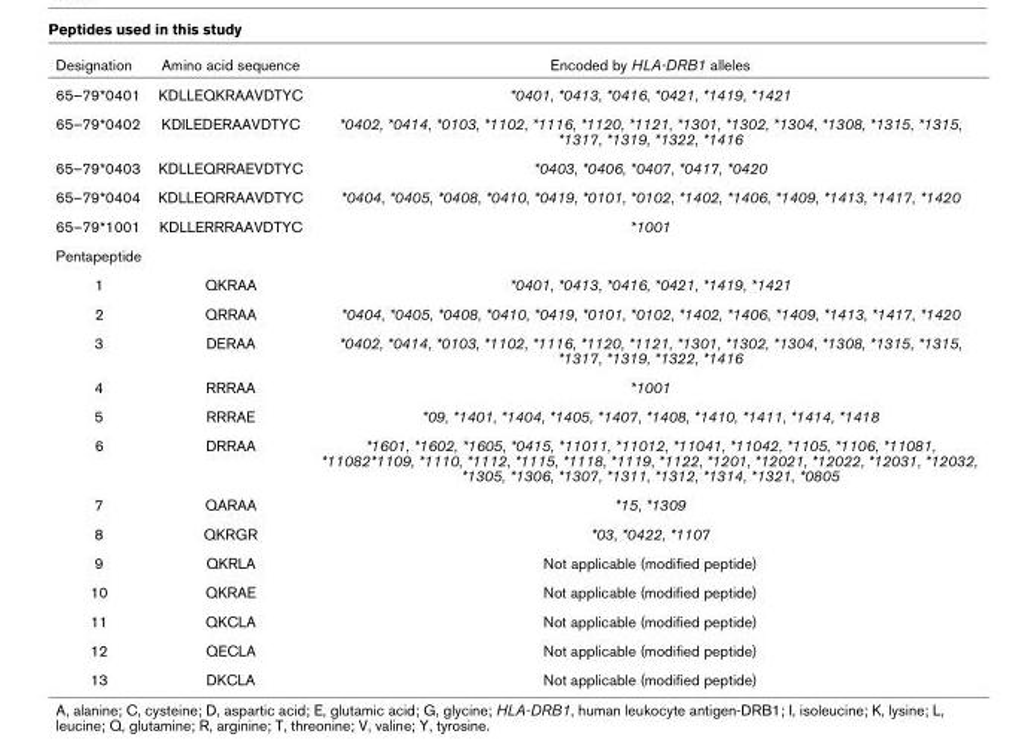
<table><thead><tr><td>Designation</td><td>Amino acid sequence</td><td>Encoded by HLA-DRB1 alleles</td></tr></thead><tbody><tr><td>65–79*0401</td><td>KDLLEQKRAAVDTYC</td><td>*0401, *0413, *0416, *0421, *1419, *1421</td></tr><tr><td>65–79*0402</td><td>KDILEDERAAVDTYC</td><td>*0402, *0414, *0103, *1102, *1116, *1120, *1121, *1301, *1302, *1304, *1308, *1315, *1315, *1317, *1319, *1322, *1416</td></tr><tr><td>65–79*0403</td><td>KDLLEQRRAEVDTYC</td><td>*0403, *0406, *0407, *0417, *0420</td></tr><tr><td>65–79*0404</td><td>KDLLEQRRAAVDTYC</td><td>*0404, *0405, *0408, *0410, *0419, *0101, *0102, *1402, *1406, *1409, *1413, *1417, *1420</td></tr><tr><td>65–79*1001</td><td>KDLLERRRAAVDTYC</td><td>*1001</td></tr><tr><td colspan="3">Pentapeptide</td></tr><tr><td>1</td><td>QKRAA</td><td>*0401, *0413, *0416, *0421, *1419, *1421</td></tr><tr><td>2</td><td>QRRAA</td><td>*0404, *0405, *0408, *0410, *0419, *0101, *0102, *1402, *1406, *1409, *1413, *1417, *1420</td></tr><tr><td>3</td><td>DERAA</td><td>*0402, *0414, *0103, *1102, *1116, *1120, *1121, *1301, *1302, *1304, *1308, *1315, *1315, *1317, *1319, *1322, *1416</td></tr><tr><td>4</td><td>RRRAA</td><td>*1001</td></tr><tr><td>5</td><td>RRRAE</td><td>*09, *1401, *1404, *1405, *1407, *1408, *1410, *1411, *1414, *1418</td></tr><tr><td>6</td><td>DRRAA</td><td>*1601, *1602, *1605, *0415, *11011, *11012, *11041, *11042, *1105, *1106, *11081, *11082*1109, *1110, *1112, *1115, *1118, *1119, *1122, *1201, *12021, *12022, *12031, *12032, *1305, *1306, *1307, *1311, *1312, *1314, *1321, *0805</td></tr><tr><td>7</td><td>QARAA</td><td>*15, *1309</td></tr><tr><td>8</td><td>QKRGR</td><td>*03, *0422, *1107</td></tr><tr><td>9</td><td>QKRLA</td><td>Not applicable (modified peptide)</td></tr><tr><td>10</td><td>QKRAE</td><td>Not applicable (modified peptide)</td></tr><tr><td>11</td><td>QKCLA</td><td>Not applicable (modified peptide)</td></tr><tr><td>12</td><td>QECLA</td><td>Not applicable (modified peptide)</td></tr><tr><td>13</td><td>DKCLA</td><td>Not applicable (modified peptide)</td></tr></tbody></table>